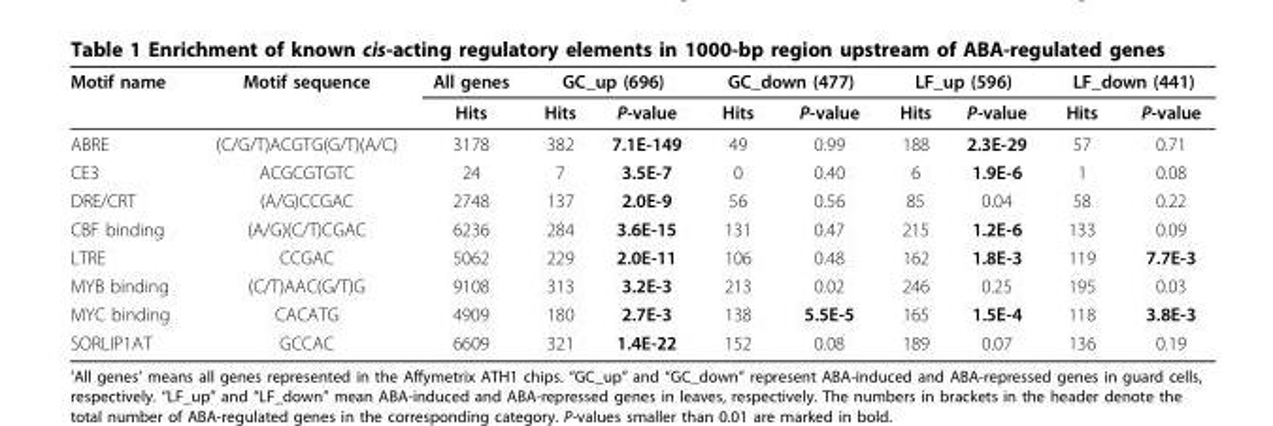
<table><thead><tr><td rowspan="2">Motif name</td><td rowspan="2">Motif sequence</td><td rowspan="2">All genes Hits</td><td colspan="2">GC_up (696)</td><td colspan="2">GC_down (477)</td><td colspan="2">LF_up (596)</td><td colspan="2">LF_down (441)</td></tr><tr><td>Hits</td><td>P-value</td><td>Hits</td><td>P-value</td><td>Hits</td><td>P-value</td><td>Hits</td><td>P-value</td></tr></thead><tbody><tr><td>ABRE</td><td>(C/G/T)ACGTG(G/T)(A/C)</td><td>3178</td><td>382</td><td>7.1E-149</td><td>49</td><td>0.99</td><td>188</td><td>2.3E-29</td><td>57</td><td>0.71</td></tr><tr><td>CE3</td><td>ACGCGTGTC</td><td>24</td><td>7</td><td>3.5E-7</td><td>0</td><td>0.40</td><td>6</td><td>1.9E-6</td><td>1</td><td>0.08</td></tr><tr><td>DRE/CRT</td><td>(A/G)CCGAC</td><td>2748</td><td>137</td><td>2.0E-9</td><td>56</td><td>0.56</td><td>85</td><td>0.04</td><td>58</td><td>0.22</td></tr><tr><td>CBF binding</td><td>(A/G)(C/T)CGAC</td><td>6236</td><td>284</td><td>3.6E-15</td><td>131</td><td>0.47</td><td>215</td><td>1.2E-6</td><td>133</td><td>0.09</td></tr><tr><td>LTRE</td><td>CCGAC</td><td>5062</td><td>229</td><td>2.0E-11</td><td>106</td><td>0.48</td><td>162</td><td>1.8E-3</td><td>119</td><td>7.7E-3</td></tr><tr><td>MYB binding</td><td>(C/T)AAC(G/T)G</td><td>9108</td><td>313</td><td>3.2E-3</td><td>213</td><td>0.02</td><td>246</td><td>0.25</td><td>195</td><td>0.03</td></tr><tr><td>MYC binding</td><td>CACATG</td><td>4909</td><td>180</td><td>2.7E-3</td><td>138</td><td>5.5E-5</td><td>165</td><td>1.5E-4</td><td>118</td><td>3.8E-3</td></tr><tr><td>SORLIP1AT</td><td>GCCAC</td><td>6609</td><td>321</td><td>1.4E-22</td><td>152</td><td>0.08</td><td>189</td><td>0.07</td><td>136</td><td>0.19</td></tr></tbody></table>